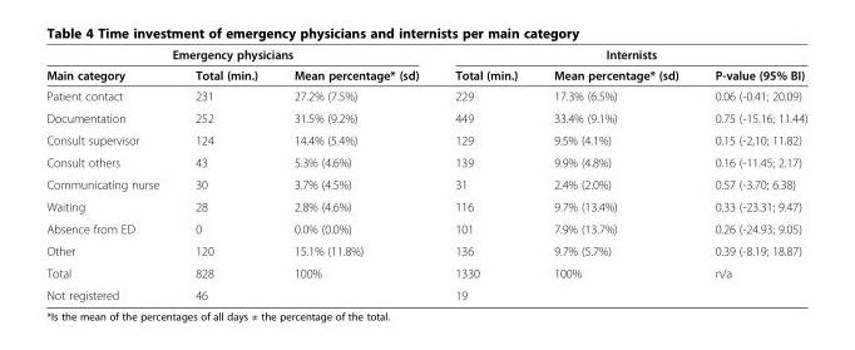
<table><thead><tr><td colspan="3">Emergency physicians</td><td colspan="3">Internists</td></tr><tr><td>Main category</td><td>Total (min.)</td><td>Mean percentage* (sd)</td><td>Total (min.)</td><td>Mean percentage* (sd)</td><td>P-value (95% BI)</td></tr></thead><tbody><tr><td>Patient contact</td><td>231</td><td>27.2% (7.5%)</td><td>229</td><td>17.3% (6.5%)</td><td>0.06 (-0.41; 20.09)</td></tr><tr><td>Documentation</td><td>252</td><td>31.5% (9.2%)</td><td>449</td><td>33.4% (9.1%)</td><td>0.75 (-15.16; 11.44)</td></tr><tr><td>Consult supervisor</td><td>124</td><td>14.4% (5.4%)</td><td>129</td><td>9.5% (4.1%)</td><td>0.15 (-2,10; 11.82)</td></tr><tr><td>Consult others</td><td>43</td><td>5.3% (4.6%)</td><td>139</td><td>9.9% (4.8%)</td><td>0.16 (-11.45; 2.17)</td></tr><tr><td>Communicating nurse</td><td>30</td><td>3.7% (4.5%)</td><td>31</td><td>2.4% (2.0%)</td><td>0.57 (-3.70; 6.38)</td></tr><tr><td>Waiting</td><td>28</td><td>2.8% (4.6%)</td><td>116</td><td>9.7% (13.4%)</td><td>0.33 (-23.31; 9.47)</td></tr><tr><td>Absence from ED</td><td>0</td><td>0.0% (0.0%)</td><td>101</td><td>7.9% (13.7%)</td><td>0.26 (-24.93; 9.05)</td></tr><tr><td>Other</td><td>120</td><td>15.1% (11.8%)</td><td>136</td><td>9.7% (5.7%)</td><td>0.39 (-8.19; 18.87)</td></tr><tr><td>Total</td><td>828</td><td>100%</td><td>1330</td><td>100%</td><td>n/a</td></tr><tr><td>Not registered</td><td>46</td><td></td><td>19</td><td></td><td></td></tr></tbody></table>